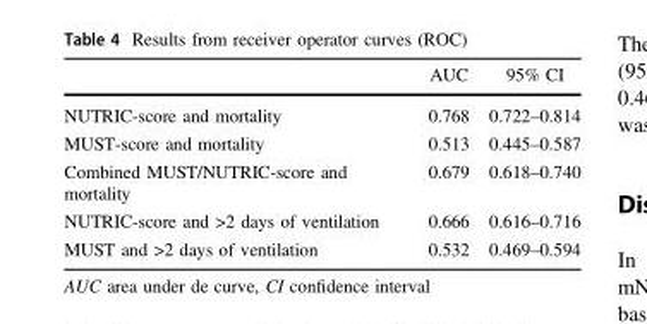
<table><thead><tr><td></td><td>AUC</td><td>95% CI</td></tr></thead><tbody><tr><td>NUTRIC-score and mortality</td><td>0.768</td><td>0.722–0.814</td></tr><tr><td>MUST-score and mortality</td><td>0.513</td><td>0.445–0.587</td></tr><tr><td>Combined MUST/NUTRIC-score and mortality</td><td>0.679</td><td>0.618–0.740</td></tr><tr><td>NUTRIC-score and &gt;2 days of ventilation</td><td>0.666</td><td>0.616–0.716</td></tr><tr><td>MUST and &gt;2 days of ventilation</td><td>0.532</td><td>0.469–0.594</td></tr></tbody></table>